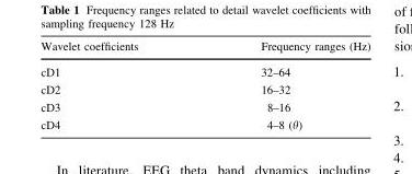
<table><thead><tr><td>Wavelet coefficients</td><td>Frequency ranges (Hz)</td></tr></thead><tbody><tr><td>cD1</td><td>32–64</td></tr><tr><td>cD2</td><td>16–32</td></tr><tr><td>cD3</td><td>8–16</td></tr><tr><td>cD4</td><td>4–8 (θ)</td></tr></tbody></table>